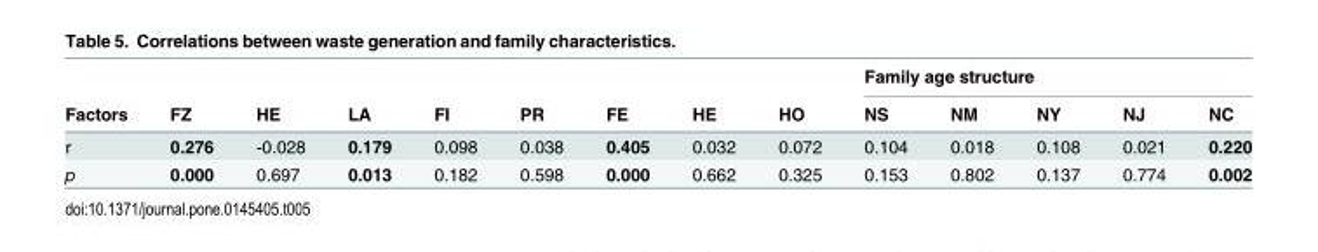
<table><thead><tr><td rowspan="2">Factors</td><td rowspan="2">FZ</td><td rowspan="2">HE</td><td rowspan="2">LA</td><td rowspan="2">FI</td><td rowspan="2">PR</td><td rowspan="2">FE</td><td rowspan="2">HE</td><td rowspan="2">HO</td><td colspan="5">Family age structure</td></tr><tr><td>NS</td><td>NM</td><td>NY</td><td>NJ</td><td>NC</td></tr></thead><tbody><tr><td>r</td><td>0.276</td><td>-0.028</td><td>0.179</td><td>0.098</td><td>0.038</td><td>0.405</td><td>0.032</td><td>0.072</td><td>0.104</td><td>0.018</td><td>0.108</td><td>0.021</td><td>0.220</td></tr><tr><td>p</td><td>0.000</td><td>0.697</td><td>0.013</td><td>0.182</td><td>0.598</td><td>0.000</td><td>0.662</td><td>0.325</td><td>0.153</td><td>0.802</td><td>0.137</td><td>0.774</td><td>0.002</td></tr></tbody></table>